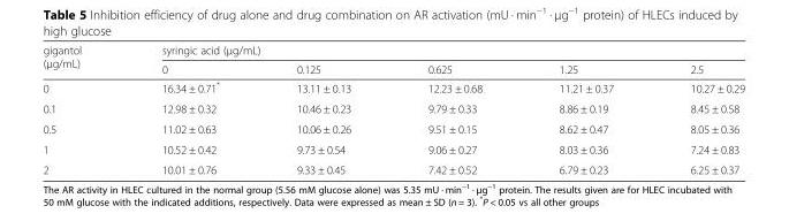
<table><thead><tr><td rowspan="2">gigantol (μg/mL)</td><td colspan="5">syringic acid (μg/mL)</td></tr><tr><td>0</td><td>0.125</td><td>0.625</td><td>1.25</td><td>2.5</td></tr></thead><tbody><tr><td>0</td><td>16.34 ± 0.71*</td><td>13.11 ± 0.13</td><td>12.23 ± 0.68</td><td>11.21 ± 0.37</td><td>10.27 ± 0.29</td></tr><tr><td>0.1</td><td>12.98 ± 0.32</td><td>10.46 ± 0.23</td><td>9.79 ± 0.33</td><td>8.86 ± 0.19</td><td>8.45 ± 0.58</td></tr><tr><td>0.5</td><td>11.02 ± 0.63</td><td>10.06 ± 0.26</td><td>9.51 ± 0.15</td><td>8.62 ± 0.47</td><td>8.05 ± 0.36</td></tr><tr><td>1</td><td>10.52 ± 0.42</td><td>9.73 ± 0.54</td><td>9.06 ± 0.27</td><td>8.03 ± 0.36</td><td>7.24 ± 0.83</td></tr><tr><td>2</td><td>10.01 ± 0.76</td><td>9.33 ± 0.45</td><td>7.42 ± 0.52</td><td>6.79 ± 0.23</td><td>6.25 ± 0.37</td></tr></tbody></table>